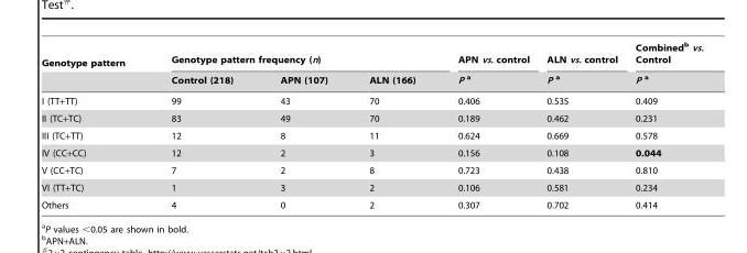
<table><thead><tr><td rowspan="2">Genotype pattern</td><td colspan="3">Genotype pattern frequency (n)</td><td rowspan="2">APN vs. control P a</td><td rowspan="2">ALN vs. control P a</td><td rowspan="2">Combined<sup>b</sup> vs. Control P a</td></tr><tr><td>Control (218)</td><td>APN (107)</td><td>ALN (166)</td></tr></thead><tbody><tr><td>I (TT+TT)</td><td>99</td><td>43</td><td>70</td><td>0.406</td><td>0.535</td><td>0.409</td></tr><tr><td>II (TC+TC)</td><td>83</td><td>49</td><td>70</td><td>0.189</td><td>0.462</td><td>0.231</td></tr><tr><td>III (TC+TT)</td><td>12</td><td>8</td><td>11</td><td>0.624</td><td>0.669</td><td>0.578</td></tr><tr><td>IV (CC+CC)</td><td>12</td><td>2</td><td>3</td><td>0.156</td><td>0.108</td><td>0.044</td></tr><tr><td>V (CC+TC)</td><td>7</td><td>2</td><td>8</td><td>0.723</td><td>0.438</td><td>0.810</td></tr><tr><td>VI (TT+TC)</td><td>1</td><td>3</td><td>2</td><td>0.106</td><td>0.581</td><td>0.234</td></tr><tr><td>Others</td><td>4</td><td>0</td><td>2</td><td>0.307</td><td>0.702</td><td>0.414</td></tr></tbody></table>